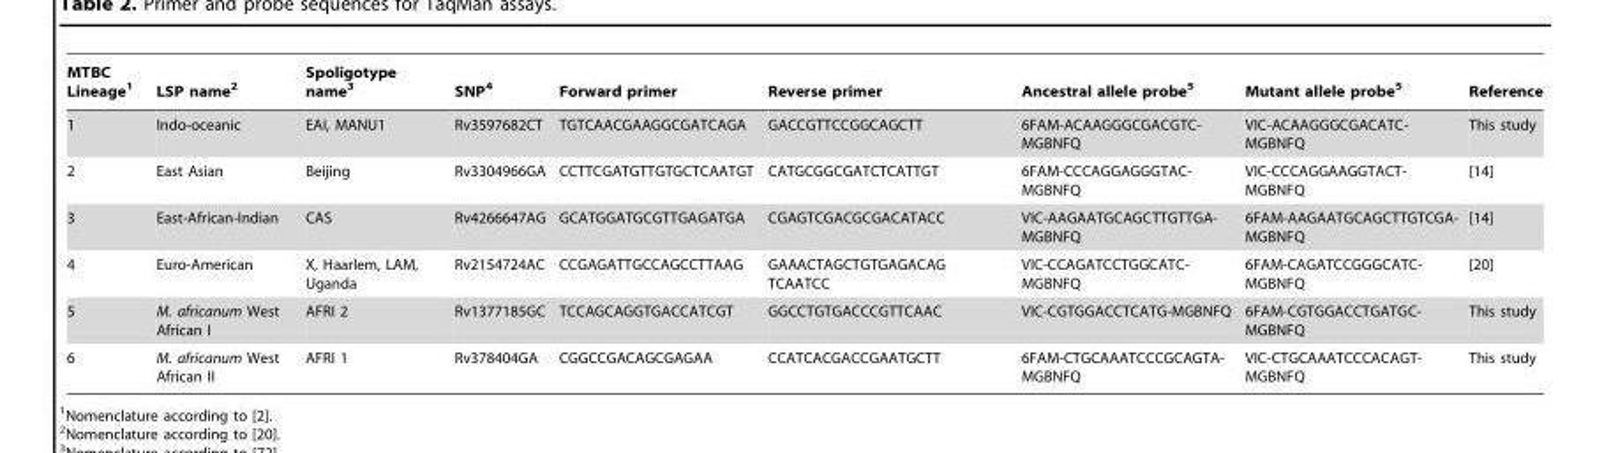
<table><thead><tr><td>MTBC Lineage<sup>1</sup></td><td>LSP name<sup>2</sup></td><td>Spoligotype name<sup>3</sup></td><td>SNP<sup>4</sup></td><td>Forward primer</td><td>Reverse primer</td><td>Ancestral allele probe<sup>5</sup></td><td>Mutant allele probe<sup>5</sup></td><td>Reference</td></tr></thead><tbody><tr><td>1</td><td>Indo-oceanic</td><td>EAI, MANU1</td><td>Rv3597682CT</td><td>TGTCAACGAAGGCGATCAGA</td><td>GACCGTTCCGGCAGCTT</td><td>6FAM-ACAAGGGCGACGTC- MGBNFQ</td><td>VIC-ACAAGGGCGACATC- MGBNFQ</td><td>This study</td></tr><tr><td>2</td><td>East Asian</td><td>Beijing</td><td>Rv3304966GA</td><td>CCTTCGATGTTGTGCTCAATGT</td><td>CATGCGGCGATCTCATTGT</td><td>6FAM-CCCAGGAGGGTAC- MGBNFQ</td><td>VIC-CCCAGGAAGGTACT- MGBNFQ</td><td>[14]</td></tr><tr><td>3</td><td>East-African-Indian</td><td>CAS</td><td>Rv4266647AG</td><td>GCATGGATGCGTTGAGATGA</td><td>CGAGTCGACGCGACATACC</td><td>VIC-AAGAATGCAGCTTGTTGA- MGBNFQ</td><td>6FAM-AAGAATGCAGCTTGTCGA- MGBNFQ</td><td>[14]</td></tr><tr><td>4</td><td>Euro-American</td><td>X, Haarlem, LAM, Uganda</td><td>Rv2154724AC</td><td>CCGAGATTGCCAGCCTTAAG</td><td>GAAACTAGCTGTGAGACAG TCAATCC</td><td>VIC-CCAGATCCTGGCATC- MGBNFQ</td><td>6FAM-CAGATCCGGGCATC- MGBNFQ</td><td>[20]</td></tr><tr><td>5</td><td>M. africanum West African I</td><td>AFRI 2</td><td>Rv1377185GC</td><td>TCCAGCAGGTGACCATCGT</td><td>GGCCTGTGACCCGTTCAAC</td><td>VIC-CGTGGACCTCATG-MGBNFQ</td><td>6FAM-CGTGGACCTGATGC- MGBNFQ</td><td>This study</td></tr><tr><td>6</td><td>M. africanum West African II</td><td>AFRI 1</td><td>Rv378404GA</td><td>CGGCCGACAGCGAGAA</td><td>CCATCACGACCGAATGCTT</td><td>6FAM-CTGCAAATCCCGCAGTA- MGBNFQ</td><td>VIC-CTGCAAATCCCACAGT- MGBNFQ</td><td>This study</td></tr></tbody></table>